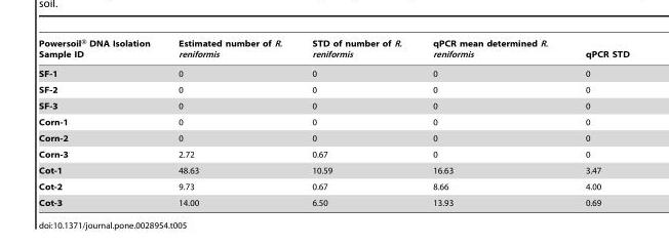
<table><thead><tr><td>Powersoil® DNA Isolation Sample ID</td><td>Estimated number of R. reniformis</td><td>STD of number of R. reniformis</td><td>qPCR mean determined R. reniformis</td><td>qPCR STD</td></tr></thead><tbody><tr><td>SF-1</td><td>0</td><td>0</td><td>0</td><td>0</td></tr><tr><td>SF-2</td><td>0</td><td>0</td><td>0</td><td>0</td></tr><tr><td>SF-3</td><td>0</td><td>0</td><td>0</td><td>0</td></tr><tr><td>Corn-1</td><td>0</td><td>0</td><td>0</td><td>0</td></tr><tr><td>Corn-2</td><td>0</td><td>0</td><td>0</td><td>0</td></tr><tr><td>Corn-3</td><td>2.72</td><td>0.67</td><td>0</td><td>0</td></tr><tr><td>Cot-1</td><td>48.63</td><td>10.59</td><td>16.63</td><td>3.47</td></tr><tr><td>Cot-2</td><td>9.73</td><td>0.67</td><td>8.66</td><td>4.00</td></tr><tr><td>Cot-3</td><td>14.00</td><td>6.50</td><td>13.93</td><td>0.69</td></tr></tbody></table>